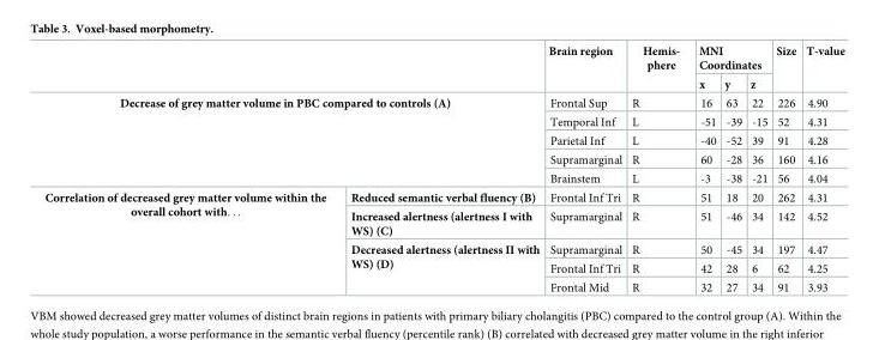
<table><thead><tr><td rowspan="2"></td><td rowspan="2"></td><td rowspan="2">Brain region</td><td rowspan="2">Hemis- phere</td><td colspan="3">MNI Coordinates</td><td rowspan="2">Size</td><td rowspan="2">T-value</td></tr><tr><td>x</td><td>y</td><td>z</td></tr></thead><tbody><tr><td rowspan="5" colspan="2">Decrease of grey matter volume in PBC compared to controls (A)</td><td>Frontal Sup</td><td>R</td><td>16</td><td>63</td><td>22</td><td>226</td><td>4.90</td></tr><tr><td>Temporal Inf</td><td>L</td><td>-51</td><td>-39</td><td>-15</td><td>52</td><td>4.31</td></tr><tr><td>Parietal Inf</td><td>L</td><td>-40</td><td>-52</td><td>39</td><td>91</td><td>4.28</td></tr><tr><td>Supramarginal</td><td>R</td><td>60</td><td>-28</td><td>36</td><td>160</td><td>4.16</td></tr><tr><td>Brainstem</td><td>L</td><td>-3</td><td>-38</td><td>-21</td><td>56</td><td>4.04</td></tr><tr><td rowspan="5">Correlation of decreased grey matter volume within the overall cohort with. . .</td><td>Reduced semantic verbal fluency (B)</td><td>Frontal Inf Tri</td><td>R</td><td>51</td><td>18</td><td>20</td><td>262</td><td>4.31</td></tr><tr><td>Increased alertness (alertness I with WS) (C)</td><td>Supramarginal</td><td>R</td><td>51</td><td>-46</td><td>34</td><td>142</td><td>4.52</td></tr><tr><td rowspan="3">Decreased alertness (alertness II with WS) (D)</td><td>Supramarginal</td><td>R</td><td>50</td><td>-45</td><td>34</td><td>197</td><td>4.47</td></tr><tr><td>Frontal Inf Tri</td><td>R</td><td>42</td><td>28</td><td>6</td><td>62</td><td>4.25</td></tr><tr><td>Frontal Mid</td><td>R</td><td>32</td><td>27</td><td>34</td><td>91</td><td>3.93</td></tr></tbody></table>